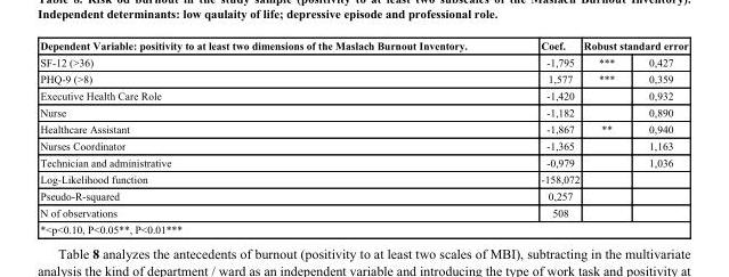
<table><thead><tr><td rowspan="2">Dependent Variable: positivity to at least two dimensions of the Maslach Burnout Inventory. SF-12 (&gt;36)</td><td rowspan="2">Coef. -1,795</td><td colspan="2">Robust standard error</td></tr><tr><td>***</td><td>0,427</td></tr></thead><tbody><tr><td>PHQ-9 (&gt;8)</td><td>1,577</td><td>***</td><td>0,359</td></tr><tr><td>Executive Health Care Role</td><td>-1,420</td><td></td><td>0,932</td></tr><tr><td>Nurse</td><td>-1,182</td><td></td><td>0,890</td></tr><tr><td>Healthcare Assistant</td><td>-1,867</td><td>**</td><td>0,940</td></tr><tr><td>Nurses Coordinator</td><td>-1,365</td><td></td><td>1,163</td></tr><tr><td>Technician and administrative</td><td>-0,979</td><td></td><td>1,036</td></tr><tr><td>Log-Likelihood function</td><td>-158,072</td><td></td><td></td></tr><tr><td>Pseudo-R-squared</td><td>0,257</td><td></td><td></td></tr><tr><td>N of observations</td><td>508</td><td></td><td></td></tr><tr><td colspan="4">*&lt;p&lt;0.10, P&lt;0.05**, P&lt;0.01***</td></tr></tbody></table>